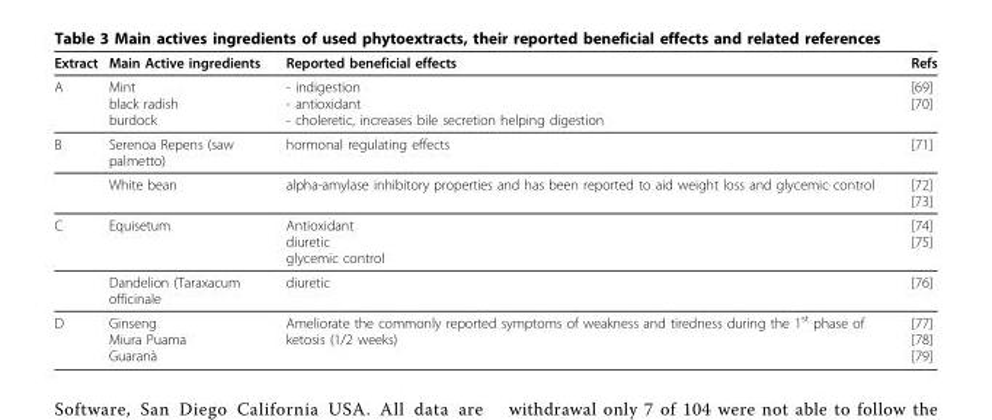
<table><thead><tr><td>Extract</td><td>Main Active ingredients</td><td>Reported beneficial effects</td><td>Refs</td></tr></thead><tbody><tr><td>A</td><td>Mint black radish burdock</td><td>- indigestion - antioxidant - choleretic, increases bile secretion helping digestion</td><td>[69] [70]</td></tr><tr><td rowspan="2">B</td><td>Serenoa Repens (saw palmetto)</td><td>hormonal regulating effects</td><td>[71]</td></tr><tr><td>White bean</td><td>alpha-amylase inhibitory properties and has been reported to aid weight loss and glycemic control</td><td>[72] [73]</td></tr><tr><td rowspan="2">C</td><td>Equisetum</td><td>Antioxidant diuretic glycemic control</td><td>[74] [75]</td></tr><tr><td>Dandelion (Taraxacum officinale</td><td>diuretic</td><td>[76]</td></tr><tr><td>D</td><td>Ginseng Miura Puama Guaranà</td><td>Ameliorate the commonly reported symptoms of weakness and tiredness during the 1<sup>st</sup> phase of ketosis (1/2 weeks)</td><td>[77] [78] [79]</td></tr></tbody></table>